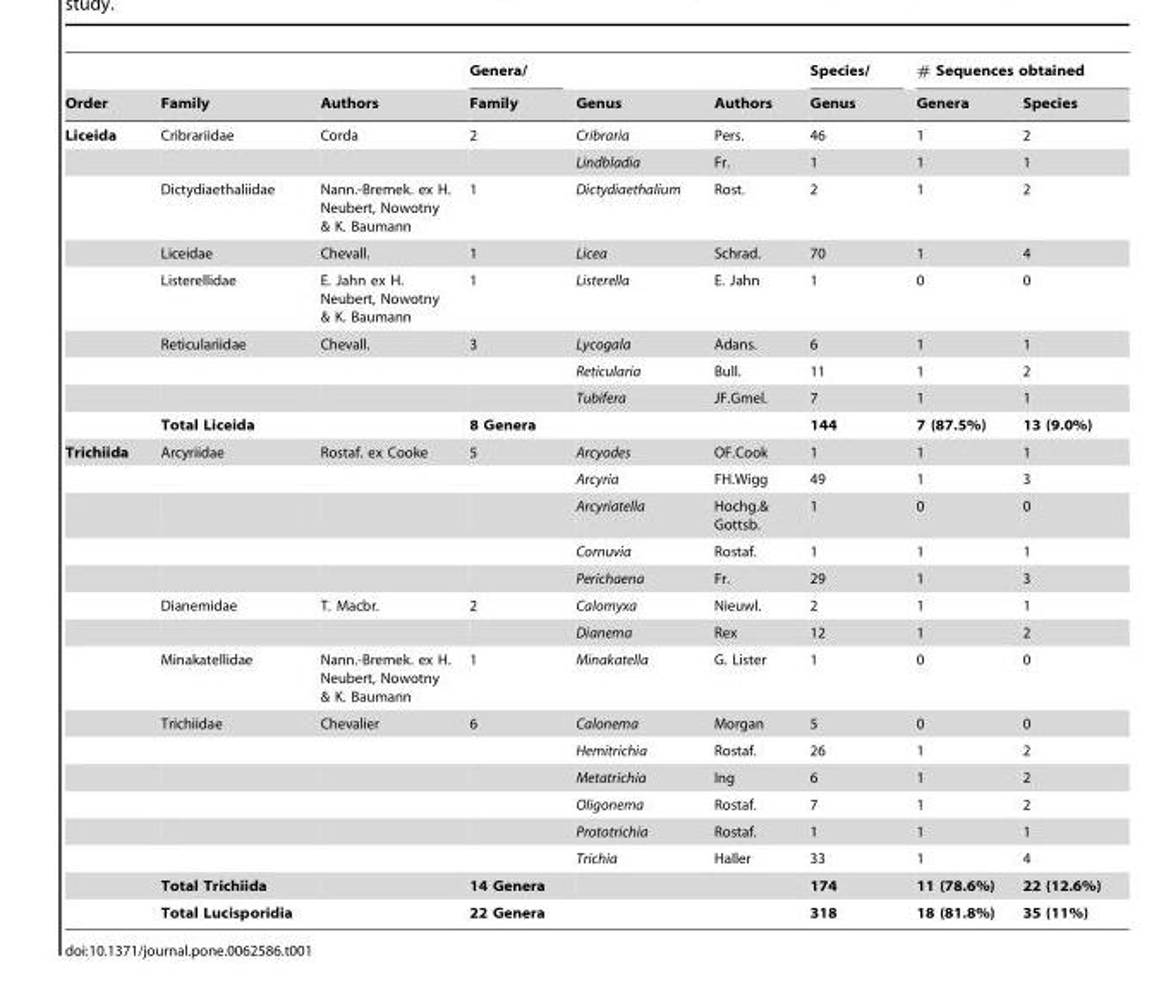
<table><thead><tr><td rowspan="2">Order</td><td rowspan="2">Family</td><td rowspan="2">Authors</td><td rowspan="2">Genera/ Family</td><td rowspan="2">Genus</td><td rowspan="2">Authors</td><td rowspan="2">Species/ Genus</td><td colspan="2"># Sequences obtained</td></tr><tr><td>Genera</td><td>Species</td></tr></thead><tbody><tr><td rowspan="9">Liceida</td><td>Cribrariidae</td><td>Corda</td><td>2</td><td>Cribraria</td><td>Pers.</td><td>46</td><td>1</td><td>2</td></tr><tr><td></td><td></td><td></td><td>Lindbladia</td><td>Fr.</td><td>1</td><td>1</td><td>1</td></tr><tr><td>Dictydiaethaliidae</td><td>Nann.-Bremek. ex H. Neubert, Nowotny &amp; K. Baumann</td><td>1</td><td>Dictydiaethalium</td><td>Rost.</td><td>2</td><td>1</td><td>2</td></tr><tr><td>Liceidae</td><td>Chevall.</td><td>1</td><td>Licea</td><td>Schrad.</td><td>70</td><td>1</td><td>4</td></tr><tr><td>Listerellidae</td><td>E. Jahn ex H. Neubert, Nowotny &amp; K. Baumann</td><td>1</td><td>Listerella</td><td>E. Jahn</td><td>1</td><td>0</td><td>0</td></tr><tr><td>Reticulariidae</td><td>Chevall.</td><td>3</td><td>Lycogala</td><td>Adans.</td><td>6</td><td>1</td><td>1</td></tr><tr><td></td><td></td><td></td><td>Reticularia</td><td>Bull.</td><td>11</td><td>1</td><td>2</td></tr><tr><td></td><td></td><td></td><td>Tubifera</td><td>JF.Gmel.</td><td>7</td><td>1</td><td>1</td></tr><tr><td>Total Liceida</td><td></td><td>8 Genera</td><td></td><td></td><td>144</td><td>7 (87.5%)</td><td>13 (9.0%)</td></tr><tr><td rowspan="16">Trichiida</td><td>Arcyriidae</td><td>Rostaf. ex Cooke</td><td>5</td><td>Arcyodes</td><td>OF.Cook</td><td>1</td><td>1</td><td>1</td></tr><tr><td></td><td></td><td></td><td>Arcyria</td><td>FH.Wigg</td><td>49</td><td>1</td><td>3</td></tr><tr><td></td><td></td><td></td><td>Arcyriatella</td><td>Hochg.&amp; Gottsb.</td><td>1</td><td>0</td><td>0</td></tr><tr><td></td><td></td><td></td><td>Cornuvia</td><td>Rostaf.</td><td>1</td><td>1</td><td>1</td></tr><tr><td></td><td></td><td></td><td>Perichaena</td><td>Fr.</td><td>29</td><td>1</td><td>3</td></tr><tr><td>Dianemidae</td><td>T. Macbr.</td><td>2</td><td>Calomyxa</td><td>Nieuwl.</td><td>2</td><td>1</td><td>1</td></tr><tr><td></td><td></td><td></td><td>Dianema</td><td>Rex</td><td>12</td><td>1</td><td>2</td></tr><tr><td>Minakatellidae</td><td>Nann.-Bremek. ex H. Neubert, Nowotny &amp; K. Baumann</td><td>1</td><td>Minakatella</td><td>G. Lister</td><td>1</td><td>0</td><td>0</td></tr><tr><td>Trichiidae</td><td>Chevalier</td><td>6</td><td>Calonema</td><td>Morgan</td><td>5</td><td>0</td><td>0</td></tr><tr><td></td><td></td><td></td><td>Hemitrichia</td><td>Rostaf.</td><td>26</td><td>1</td><td>2</td></tr><tr><td></td><td></td><td></td><td>Metatrichia</td><td>Ing</td><td>6</td><td>1</td><td>2</td></tr><tr><td></td><td></td><td></td><td>Oligonema</td><td>Rostaf.</td><td>7</td><td>1</td><td>2</td></tr><tr><td></td><td></td><td></td><td>Prototrichia</td><td>Rostaf.</td><td>1</td><td>1</td><td>1</td></tr><tr><td></td><td></td><td></td><td>Trichia</td><td>Haller</td><td>33</td><td>1</td><td>4</td></tr><tr><td>Total Trichiida</td><td></td><td>14 Genera</td><td></td><td></td><td>174</td><td>11 (78.6%)</td><td>22 (12.6%)</td></tr><tr><td>Total Lucisporidia</td><td></td><td>22 Genera</td><td></td><td></td><td>318</td><td>18 (81.8%)</td><td>35 (11%)</td></tr></tbody></table>